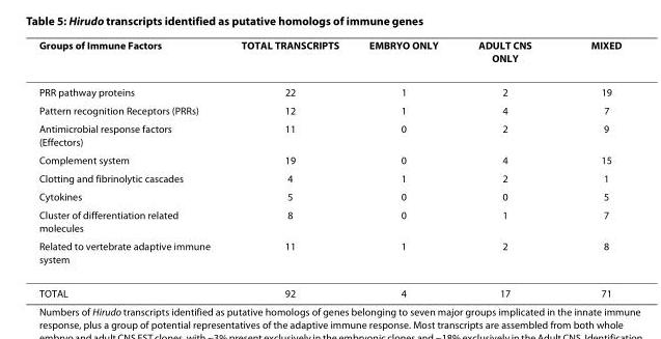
<table><thead><tr><td>Groups of Immune Factors</td><td>TOTAL TRANSCRIPTS</td><td>EMBRYO ONLY</td><td>ADULT CNS ONLY</td><td>MIXED</td></tr></thead><tbody><tr><td>PRR pathway proteins</td><td>22</td><td>1</td><td>2</td><td>19</td></tr><tr><td>Pattern recognition Receptors (PRRs)</td><td>12</td><td>1</td><td>4</td><td>7</td></tr><tr><td>Antimicrobial response factors (Effectors)</td><td>11</td><td>0</td><td>2</td><td>9</td></tr><tr><td>Complement system</td><td>19</td><td>0</td><td>4</td><td>15</td></tr><tr><td>Clotting and fibrinolytic cascades</td><td>4</td><td>1</td><td>2</td><td>1</td></tr><tr><td>Cytokines</td><td>5</td><td>0</td><td>0</td><td>5</td></tr><tr><td>Cluster of differentiation related molecules</td><td>8</td><td>0</td><td>1</td><td>7</td></tr><tr><td>Related to vertebrate adaptive immune system</td><td>11</td><td>1</td><td>2</td><td>8</td></tr><tr><td>TOTAL</td><td>92</td><td>4</td><td>17</td><td>71</td></tr></tbody></table>